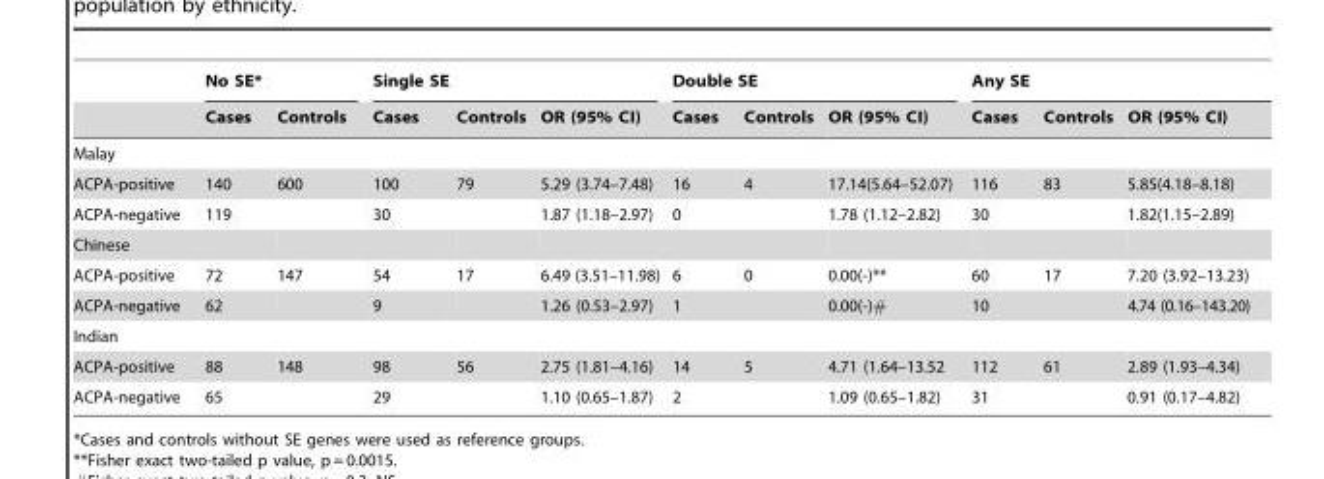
<table><thead><tr><td rowspan="2"></td><td colspan="2">No SE*</td><td colspan="3">Single SE</td><td colspan="3">Double SE</td><td colspan="3">Any SE</td></tr><tr><td>Cases</td><td>Controls</td><td>Cases</td><td>Controls</td><td>OR (95% CI)</td><td>Cases</td><td>Controls</td><td>OR (95% CI)</td><td>Cases</td><td>Controls</td><td>OR (95% CI)</td></tr></thead><tbody><tr><td colspan="12">Malay</td></tr><tr><td>ACPA-positive</td><td>140</td><td>600</td><td>100</td><td>79</td><td>5.29 (3.74–7.48)</td><td>16</td><td>4</td><td>17.14(5.64–52.07)</td><td>116</td><td>83</td><td>5.85(4.18–8.18)</td></tr><tr><td>ACPA-negative</td><td>119</td><td></td><td>30</td><td></td><td>1.87 (1.18–2.97)</td><td>0</td><td></td><td>1.78 (1.12–2.82)</td><td>30</td><td></td><td>1.82(1.15–2.89)</td></tr><tr><td colspan="12">Chinese</td></tr><tr><td>ACPA-positive</td><td>72</td><td>147</td><td>54</td><td>17</td><td>6.49 (3.51–11.98)</td><td>6</td><td>0</td><td>0.00(-)**</td><td>60</td><td>17</td><td>7.20 (3.92–13.23)</td></tr><tr><td>ACPA-negative</td><td>62</td><td></td><td>9</td><td></td><td>1.26 (0.53–2.97)</td><td>1</td><td></td><td>0.00(-)#</td><td>10</td><td></td><td>4.74 (0.16–143.20)</td></tr><tr><td colspan="12">Indian</td></tr><tr><td>ACPA-positive</td><td>88</td><td>148</td><td>98</td><td>56</td><td>2.75 (1.81–4.16)</td><td>14</td><td>5</td><td>4.71 (1.64–13.52</td><td>112</td><td>61</td><td>2.89 (1.93–4.34)</td></tr><tr><td>ACPA-negative</td><td>65</td><td></td><td>29</td><td></td><td>1.10 (0.65–1.87)</td><td>2</td><td></td><td>1.09 (0.65–1.82)</td><td>31</td><td></td><td>0.91 (0.17–4.82)</td></tr></tbody></table>